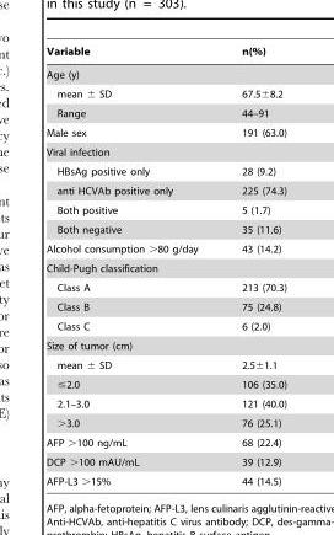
<table><thead><tr><td>Variable</td><td>n(%)</td></tr></thead><tbody><tr><td colspan="2">Age (y)</td></tr><tr><td>mean ± SD</td><td>67.5±8.2</td></tr><tr><td>Range</td><td>44–91</td></tr><tr><td>Male sex</td><td>191 (63.0)</td></tr><tr><td colspan="2">Viral infection</td></tr><tr><td>HBsAg positive only</td><td>28 (9.2)</td></tr><tr><td>anti HCVAb positive only</td><td>225 (74.3)</td></tr><tr><td>Both positive</td><td>5 (1.7)</td></tr><tr><td>Both negative</td><td>35 (11.6)</td></tr><tr><td>Alcohol consumption &gt;80 g/day</td><td>43 (14.2)</td></tr><tr><td colspan="2">Child-Pugh classification</td></tr><tr><td>Class A</td><td>213 (70.3)</td></tr><tr><td>Class B</td><td>75 (24.8)</td></tr><tr><td>Class C</td><td>6 (2.0)</td></tr><tr><td colspan="2">Size of tumor (cm)</td></tr><tr><td>mean ± SD</td><td>2.5±1.1</td></tr><tr><td>≤2.0</td><td>106 (35.0)</td></tr><tr><td>2.1–3.0</td><td>121 (40.0)</td></tr><tr><td>&gt;3.0</td><td>76 (25.1)</td></tr><tr><td>AFP &gt;100 ng/mL</td><td>68 (22.4)</td></tr><tr><td>DCP &gt;100 mAU/mL</td><td>39 (12.9)</td></tr><tr><td>AFP-L3 &gt;15%</td><td>44 (14.5)</td></tr></tbody></table>